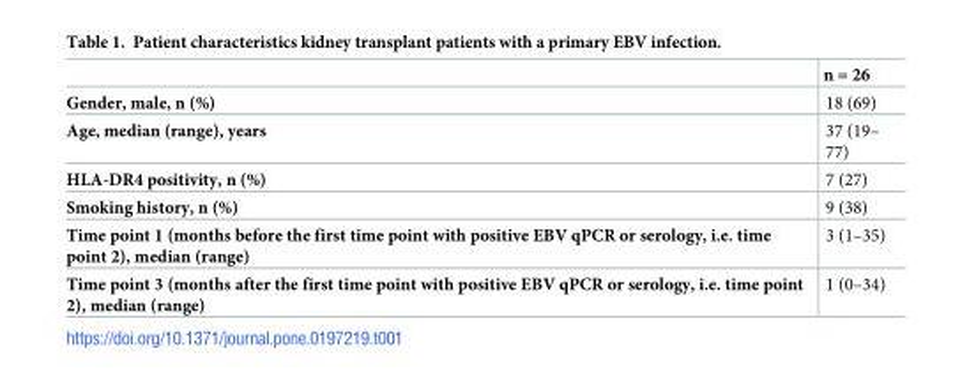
<table><thead><tr><td></td><td>n = 26</td></tr></thead><tbody><tr><td>Gender, male, n (%)</td><td>18 (69)</td></tr><tr><td>Age, median (range), years</td><td>37 (19– 77)</td></tr><tr><td>HLA-DR4 positivity, n (%)</td><td>7 (27)</td></tr><tr><td>Smoking history, n (%)</td><td>9 (38)</td></tr><tr><td>Time point 1 (months before the first time point with positive EBV qPCR or serology, i.e. time point 2), median (range)</td><td>3 (1–35)</td></tr><tr><td>Time point 3 (months after the first time point with positive EBV qPCR or serology, i.e. time point 2), median (range)</td><td>1 (0–34)</td></tr></tbody></table>